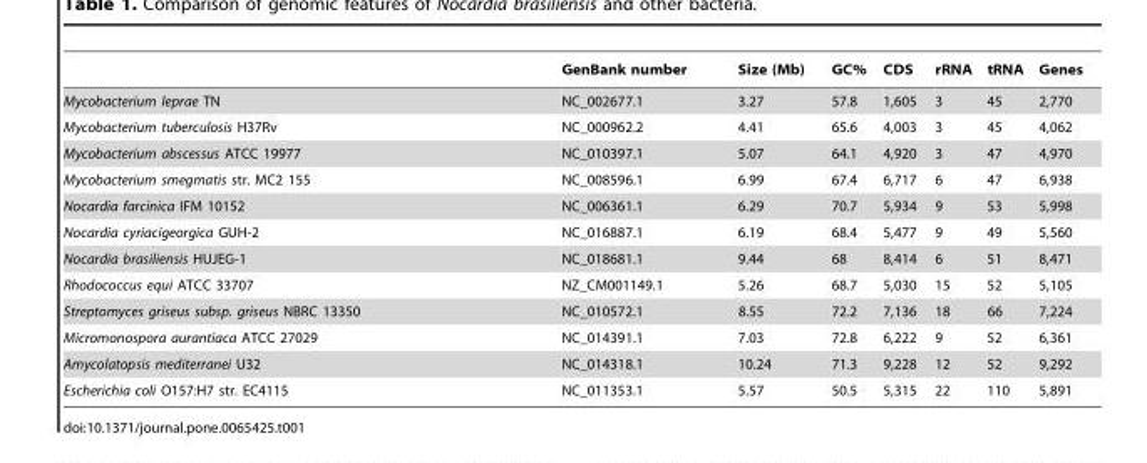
<table><thead><tr><td></td><td>GenBank number</td><td>Size (Mb)</td><td>GC%</td><td>CDS</td><td>rRNA</td><td>tRNA</td><td>Genes</td></tr></thead><tbody><tr><td>Mycobacterium leprae TN</td><td>NC_002677.1</td><td>3.27</td><td>57.8</td><td>1,605</td><td>3</td><td>45</td><td>2,770</td></tr><tr><td>Mycobacterium tuberculosis H37Rv</td><td>NC_000962.2</td><td>4.41</td><td>65.6</td><td>4,003</td><td>3</td><td>45</td><td>4,062</td></tr><tr><td>Mycobacterium abscessus ATCC 19977</td><td>NC_010397.1</td><td>5.07</td><td>64.1</td><td>4,920</td><td>3</td><td>47</td><td>4,970</td></tr><tr><td>Mycobacterium smegmatis str. MC2 155</td><td>NC_008596.1</td><td>6.99</td><td>67.4</td><td>6,717</td><td>6</td><td>47</td><td>6,938</td></tr><tr><td>Nocardia farcinica IFM 10152</td><td>NC_006361.1</td><td>6.29</td><td>70.7</td><td>5,934</td><td>9</td><td>53</td><td>5,998</td></tr><tr><td>Nocardia cyriacigeorgica GUH-2</td><td>NC_016887.1</td><td>6.19</td><td>68.4</td><td>5,477</td><td>9</td><td>49</td><td>5,560</td></tr><tr><td>Nocardia brasiliensis HUJEG-1</td><td>NC_018681.1</td><td>9.44</td><td>68</td><td>8,414</td><td>6</td><td>51</td><td>8,471</td></tr><tr><td>Rhodococcus equi ATCC 33707</td><td>NZ_CM001149.1</td><td>5.26</td><td>68.7</td><td>5,030</td><td>15</td><td>52</td><td>5,105</td></tr><tr><td>Streptomyces griseus subsp. griseus NBRC 13350</td><td>NC_010572.1</td><td>8.55</td><td>72.2</td><td>7,136</td><td>18</td><td>66</td><td>7,224</td></tr><tr><td>Micromonospora aurantiaca ATCC 27029</td><td>NC_014391.1</td><td>7.03</td><td>72.8</td><td>6,222</td><td>9</td><td>52</td><td>6,361</td></tr><tr><td>Amycolatopsis mediterranei U32</td><td>NC_014318.1</td><td>10.24</td><td>71.3</td><td>9,228</td><td>12</td><td>52</td><td>9,292</td></tr><tr><td>Escherichia coli O157:H7 str. EC4115</td><td>NC_011353.1</td><td>5.57</td><td>50.5</td><td>5,315</td><td>22</td><td>110</td><td>5,891</td></tr></tbody></table>